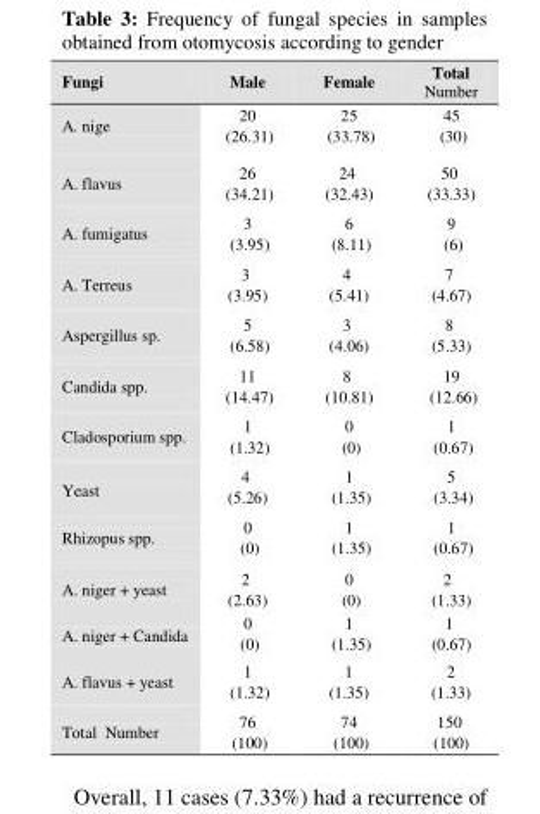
<table><thead><tr><td>Fungi</td><td>Male</td><td>Female</td><td>Total Number</td></tr></thead><tbody><tr><td>A. nige</td><td>20 (26.31)</td><td>25 (33.78)</td><td>45 (30)</td></tr><tr><td>A. flavus</td><td>26 (34.21)</td><td>24 (32.43)</td><td>50 (33.33)</td></tr><tr><td>A. fumigatus</td><td>3 (3.95)</td><td>6 (8.11)</td><td>9 (6)</td></tr><tr><td>A. Terreus</td><td>3 (3.95)</td><td>4 (5.41)</td><td>7 (4.67)</td></tr><tr><td>Aspergillus sp.</td><td>5 (6.58)</td><td>3 (4.06)</td><td>8 (5.33)</td></tr><tr><td>Candida spp.</td><td>11 (14.47)</td><td>8 (10.81)</td><td>19 (12.66)</td></tr><tr><td>Cladosporium spp.</td><td>1 (1.32)</td><td>0 (0)</td><td>1 (0.67)</td></tr><tr><td>Yeast</td><td>4 (5.26)</td><td>1 (1.35)</td><td>5 (3.34)</td></tr><tr><td>Rhizopus spp.</td><td>0 (0)</td><td>1 (1.35)</td><td>1 (0.67)</td></tr><tr><td>A. niger + yeast</td><td>2 (2.63)</td><td>0 (0)</td><td>2 (1.33)</td></tr><tr><td>A. niger + Candida</td><td>0 (0)</td><td>1 (1.35)</td><td>1 (0.67)</td></tr><tr><td>A. flavus + yeast</td><td>1 (1.32)</td><td>1 (1.35)</td><td>2 (1.33)</td></tr><tr><td>Total Number</td><td>76 (100)</td><td>74 (100)</td><td>150 (100)</td></tr></tbody></table>